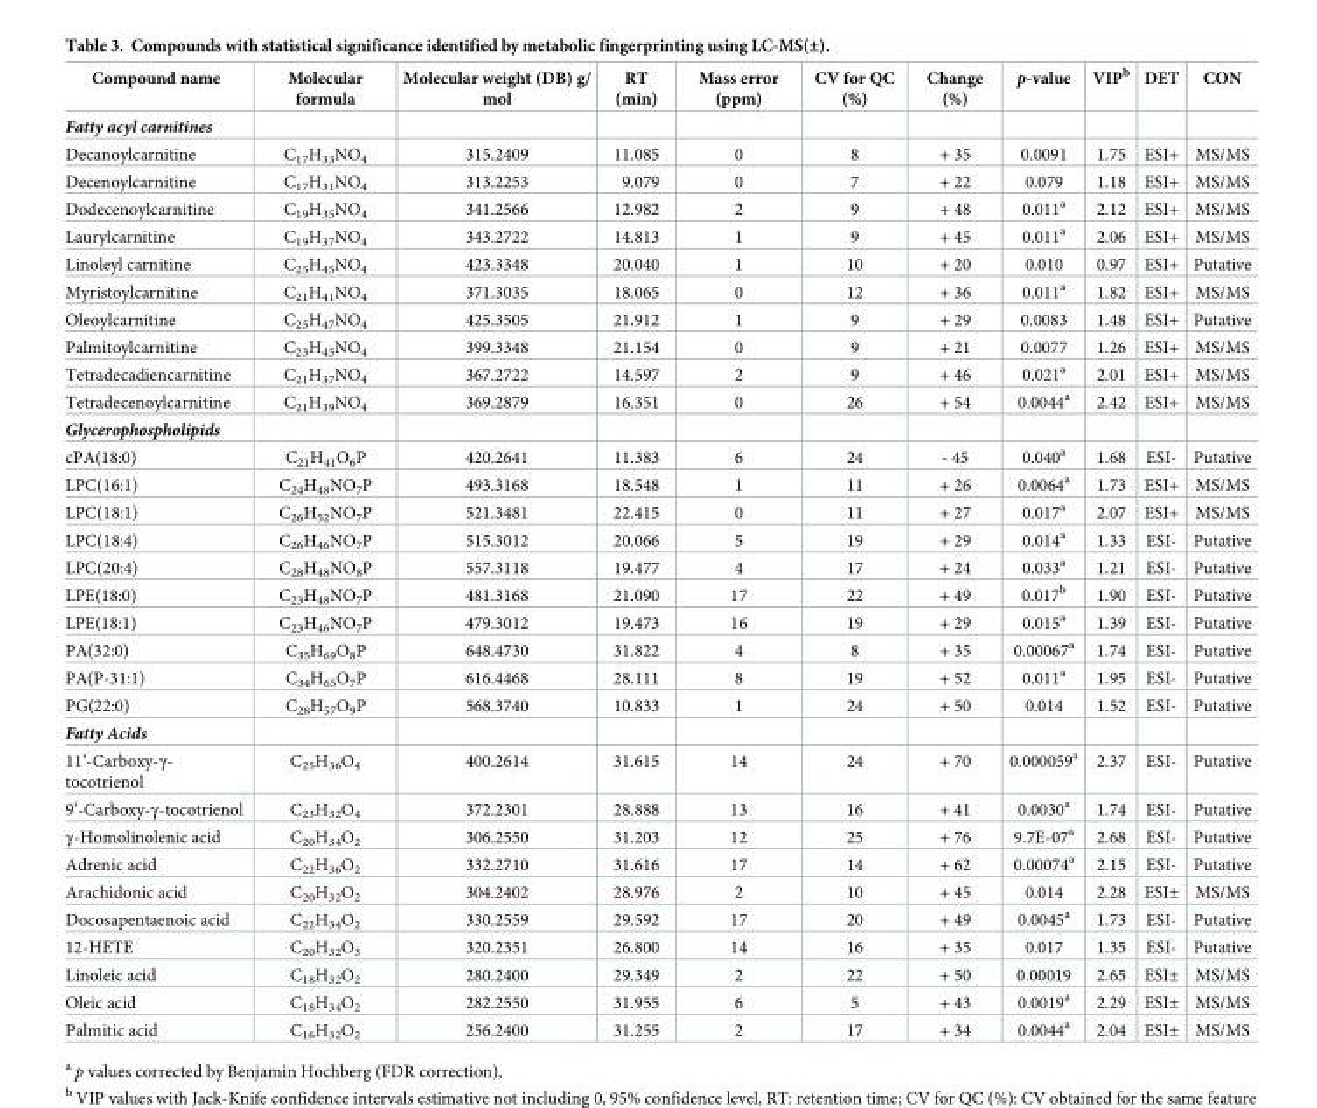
<table><thead><tr><td>Compound name</td><td>Molecular formula</td><td>Molecular weight (DB) g/ mol</td><td>RT (min)</td><td>Mass error (ppm)</td><td>CV for QC (%)</td><td>Change (%)</td><td>p-value</td><td>VIP<sup>b</sup></td><td>DET</td><td>CON</td></tr></thead><tbody><tr><td colspan="11">Fatty acyl carnitines</td></tr><tr><td>Decanoylcarnitine</td><td>C<sub>17</sub>H<sub>33</sub>NO<sub>4</sub></td><td>315.2409</td><td>11.085</td><td>0</td><td>8</td><td>+ 35</td><td>0.0091</td><td>1.75</td><td>ESI+</td><td>MS/MS</td></tr><tr><td>Decenoylcarnitine</td><td>C<sub>17</sub>H<sub>31</sub>NO<sub>4</sub></td><td>313.2253</td><td>9.079</td><td>0</td><td>7</td><td>+ 22</td><td>0.079</td><td>1.18</td><td>ESI+</td><td>MS/MS</td></tr><tr><td>Dodecenoylcarnitine</td><td>C<sub>19</sub>H<sub>35</sub>NO<sub>4</sub></td><td>341.2566</td><td>12.982</td><td>2</td><td>9</td><td>+ 48</td><td>0.011<sup>a</sup></td><td>2.12</td><td>ESI+</td><td>MS/MS</td></tr><tr><td>Laurylcarnitine</td><td>C<sub>19</sub>H<sub>37</sub>NO<sub>4</sub></td><td>343.2722</td><td>14.813</td><td>1</td><td>9</td><td>+ 45</td><td>0.011<sup>a</sup></td><td>2.06</td><td>ESI+</td><td>MS/MS</td></tr><tr><td>Linoleyl carnitine</td><td>C<sub>25</sub>H<sub>45</sub>NO<sub>4</sub></td><td>423.3348</td><td>20.040</td><td>1</td><td>10</td><td>+ 20</td><td>0.010</td><td>0.97</td><td>ESI+</td><td>Putative</td></tr><tr><td>Myristoylcarnitine</td><td>C<sub>21</sub>H<sub>41</sub>NO<sub>4</sub></td><td>371.3035</td><td>18.065</td><td>0</td><td>12</td><td>+ 36</td><td>0.011<sup>a</sup></td><td>1.82</td><td>ESI+</td><td>MS/MS</td></tr><tr><td>Oleoylcarnitine</td><td>C<sub>25</sub>H<sub>47</sub>NO<sub>4</sub></td><td>425.3505</td><td>21.912</td><td>1</td><td>9</td><td>+ 29</td><td>0.0083</td><td>1.48</td><td>ESI+</td><td>Putative</td></tr><tr><td>Palmitoylcarnitine</td><td>C<sub>23</sub>H<sub>45</sub>NO<sub>4</sub></td><td>399.3348</td><td>21.154</td><td>0</td><td>9</td><td>+ 21</td><td>0.0077</td><td>1.26</td><td>ESI+</td><td>MS/MS</td></tr><tr><td>Tetradecadiencarnitine</td><td>C<sub>21</sub>H<sub>37</sub>NO<sub>4</sub></td><td>367.2722</td><td>14.597</td><td>2</td><td>9</td><td>+ 46</td><td>0.021<sup>a</sup></td><td>2.01</td><td>ESI+</td><td>MS/MS</td></tr><tr><td>Tetradecenoylcarnitine</td><td>C<sub>21</sub>H<sub>39</sub>NO<sub>4</sub></td><td>369.2879</td><td>16.351</td><td>0</td><td>26</td><td>+ 54</td><td>0.0044<sup>a</sup></td><td>2.42</td><td>ESI+</td><td>MS/MS</td></tr><tr><td colspan="11">Glycerophospholipids</td></tr><tr><td>cPA(18:0)</td><td>C<sub>21</sub>H<sub>41</sub>O<sub>6</sub>P</td><td>420.2641</td><td>11.383</td><td>6</td><td>24</td><td>- 45</td><td>0.040<sup>a</sup></td><td>1.68</td><td>ESI-</td><td>Putative</td></tr><tr><td>LPC(16:1)</td><td>C<sub>24</sub>H<sub>48</sub>NO<sub>7</sub>P</td><td>493.3168</td><td>18.548</td><td>1</td><td>11</td><td>+ 26</td><td>0.0064<sup>a</sup></td><td>1.73</td><td>ESI+</td><td>MS/MS</td></tr><tr><td>LPC(18:1)</td><td>C<sub>26</sub>H<sub>52</sub>NO<sub>7</sub>P</td><td>521.3481</td><td>22.415</td><td>0</td><td>11</td><td>+ 27</td><td>0.017<sup>a</sup></td><td>2.07</td><td>ESI+</td><td>MS/MS</td></tr><tr><td>LPC(18:4)</td><td>C<sub>26</sub>H<sub>46</sub>NO<sub>7</sub>P</td><td>515.3012</td><td>20.066</td><td>5</td><td>19</td><td>+ 29</td><td>0.014<sup>a</sup></td><td>1.33</td><td>ESI-</td><td>Putative</td></tr><tr><td>LPC(20:4)</td><td>C<sub>28</sub>H<sub>48</sub>NO<sub>8</sub>P</td><td>557.3118</td><td>19.477</td><td>4</td><td>17</td><td>+ 24</td><td>0.033<sup>a</sup></td><td>1.21</td><td>ESI-</td><td>Putative</td></tr><tr><td>LPE(18:0)</td><td>C<sub>23</sub>H<sub>48</sub>NO<sub>7</sub>P</td><td>481.3168</td><td>21.090</td><td>17</td><td>22</td><td>+ 49</td><td>0.017<sup>b</sup></td><td>1.90</td><td>ESI-</td><td>Putative</td></tr><tr><td>LPE(18:1)</td><td>C<sub>23</sub>H<sub>46</sub>NO<sub>7</sub>P</td><td>479.3012</td><td>19.473</td><td>16</td><td>19</td><td>+ 29</td><td>0.015<sup>a</sup></td><td>1.39</td><td>ESI-</td><td>Putative</td></tr><tr><td>PA(32:0)</td><td>C<sub>35</sub>H<sub>69</sub>O<sub>8</sub>P</td><td>648.4730</td><td>31.822</td><td>4</td><td>8</td><td>+ 35</td><td>0.00067<sup>a</sup></td><td>1.74</td><td>ESI-</td><td>Putative</td></tr><tr><td>PA(P-31:1)</td><td>C<sub>34</sub>H<sub>65</sub>O<sub>7</sub>P</td><td>616.4468</td><td>28.111</td><td>8</td><td>19</td><td>+ 52</td><td>0.011<sup>a</sup></td><td>1.95</td><td>ESI-</td><td>Putative</td></tr><tr><td>PG(22:0)</td><td>C<sub>28</sub>H<sub>57</sub>O<sub>9</sub>P</td><td>568.3740</td><td>10.833</td><td>1</td><td>24</td><td>+ 50</td><td>0.014</td><td>1.52</td><td>ESI-</td><td>Putative</td></tr><tr><td colspan="11">Fatty Acids</td></tr><tr><td>11’-Carboxy-γ- tocotrienol</td><td>C<sub>25</sub>H<sub>36</sub>O<sub>4</sub></td><td>400.2614</td><td>31.615</td><td>14</td><td>24</td><td>+ 70</td><td>0.000059<sup>a</sup></td><td>2.37</td><td>ESI-</td><td>Putative</td></tr><tr><td>9’-Carboxy-γ-tocotrienol</td><td>C<sub>23</sub>H<sub>32</sub>O<sub>4</sub></td><td>372.2301</td><td>28.888</td><td>13</td><td>16</td><td>+ 41</td><td>0.0030<sup>a</sup></td><td>1.74</td><td>ESI-</td><td>Putative</td></tr><tr><td>γ-Homolinolenic acid</td><td>C<sub>20</sub>H<sub>34</sub>O<sub>2</sub></td><td>306.2550</td><td>31.203</td><td>12</td><td>25</td><td>+ 76</td><td>9.7E-07<sup>a</sup></td><td>2.68</td><td>ESI-</td><td>Putative</td></tr><tr><td>Adrenic acid</td><td>C<sub>22</sub>H<sub>36</sub>O<sub>2</sub></td><td>332.2710</td><td>31.616</td><td>17</td><td>14</td><td>+ 62</td><td>0.00074<sup>a</sup></td><td>2.15</td><td>ESI-</td><td>Putative</td></tr><tr><td>Arachidonic acid</td><td>C<sub>20</sub>H<sub>32</sub>O<sub>2</sub></td><td>304.2402</td><td>28.976</td><td>2</td><td>10</td><td>+ 45</td><td>0.014</td><td>2.28</td><td>ESI±</td><td>MS/MS</td></tr><tr><td>Docosapentaenoic acid</td><td>C<sub>22</sub>H<sub>34</sub>O<sub>2</sub></td><td>330.2559</td><td>29.592</td><td>17</td><td>20</td><td>+ 49</td><td>0.0045<sup>a</sup></td><td>1.73</td><td>ESI-</td><td>Putative</td></tr><tr><td>12-HETE</td><td>C<sub>20</sub>H<sub>32</sub>O<sub>3</sub></td><td>320.2351</td><td>26.800</td><td>14</td><td>16</td><td>+ 35</td><td>0.017</td><td>1.35</td><td>ESI-</td><td>Putative</td></tr><tr><td>Linoleic acid</td><td>C<sub>18</sub>H<sub>32</sub>O<sub>2</sub></td><td>280.2400</td><td>29.349</td><td>2</td><td>22</td><td>+ 50</td><td>0.00019</td><td>2.65</td><td>ESI±</td><td>MS/MS</td></tr><tr><td>Oleic acid</td><td>C<sub>18</sub>H<sub>34</sub>O<sub>2</sub></td><td>282.2550</td><td>31.955</td><td>6</td><td>5</td><td>+ 43</td><td>0.0019<sup>a</sup></td><td>2.29</td><td>ESI±</td><td>MS/MS</td></tr><tr><td>Palmitic acid</td><td>C<sub>16</sub>H<sub>32</sub>O<sub>2</sub></td><td>256.2400</td><td>31.255</td><td>2</td><td>17</td><td>+ 34</td><td>0.0044<sup>a</sup></td><td>2.04</td><td>ESI±</td><td>MS/MS</td></tr></tbody></table>